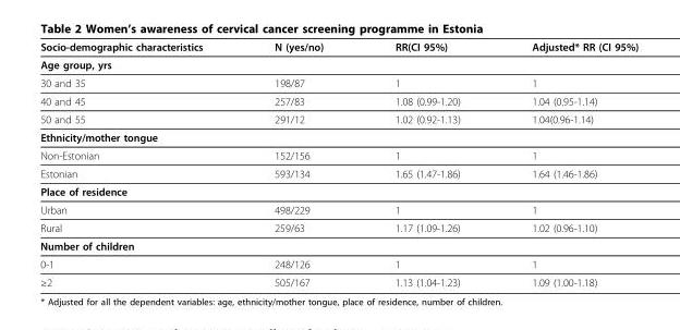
<table><thead><tr><td>Socio-demographic characteristics</td><td>N (yes/no)</td><td>RR(CI 95%)</td><td>Adjusted* RR (CI 95%)</td></tr></thead><tbody><tr><td colspan="4">Age group, yrs</td></tr><tr><td>30 and 35</td><td>198/87</td><td>1</td><td>1</td></tr><tr><td>40 and 45</td><td>257/83</td><td>1.08 (0.99-1.20)</td><td>1.04 (0.95-1.14)</td></tr><tr><td>50 and 55</td><td>291/12</td><td>1.02 (0.92-1.13)</td><td>1.04(0.96-1.14)</td></tr><tr><td colspan="4">Ethnicity/mother tongue</td></tr><tr><td>Non-Estonian</td><td>152/156</td><td>1</td><td>1</td></tr><tr><td>Estonian</td><td>593/134</td><td>1.65 (1.47-1.86)</td><td>1.64 (1.46-1.86)</td></tr><tr><td colspan="4">Place of residence</td></tr><tr><td>Urban</td><td>498/229</td><td>1</td><td>1</td></tr><tr><td>Rural</td><td>259/63</td><td>1.17 (1.09-1.26)</td><td>1.02 (0.96-1.10)</td></tr><tr><td colspan="4">Number of children</td></tr><tr><td>0-1</td><td>248/126</td><td>1</td><td>1</td></tr><tr><td>≥2</td><td>505/167</td><td>1.13 (1.04-1.23)</td><td>1.09 (1.00-1.18)</td></tr></tbody></table>